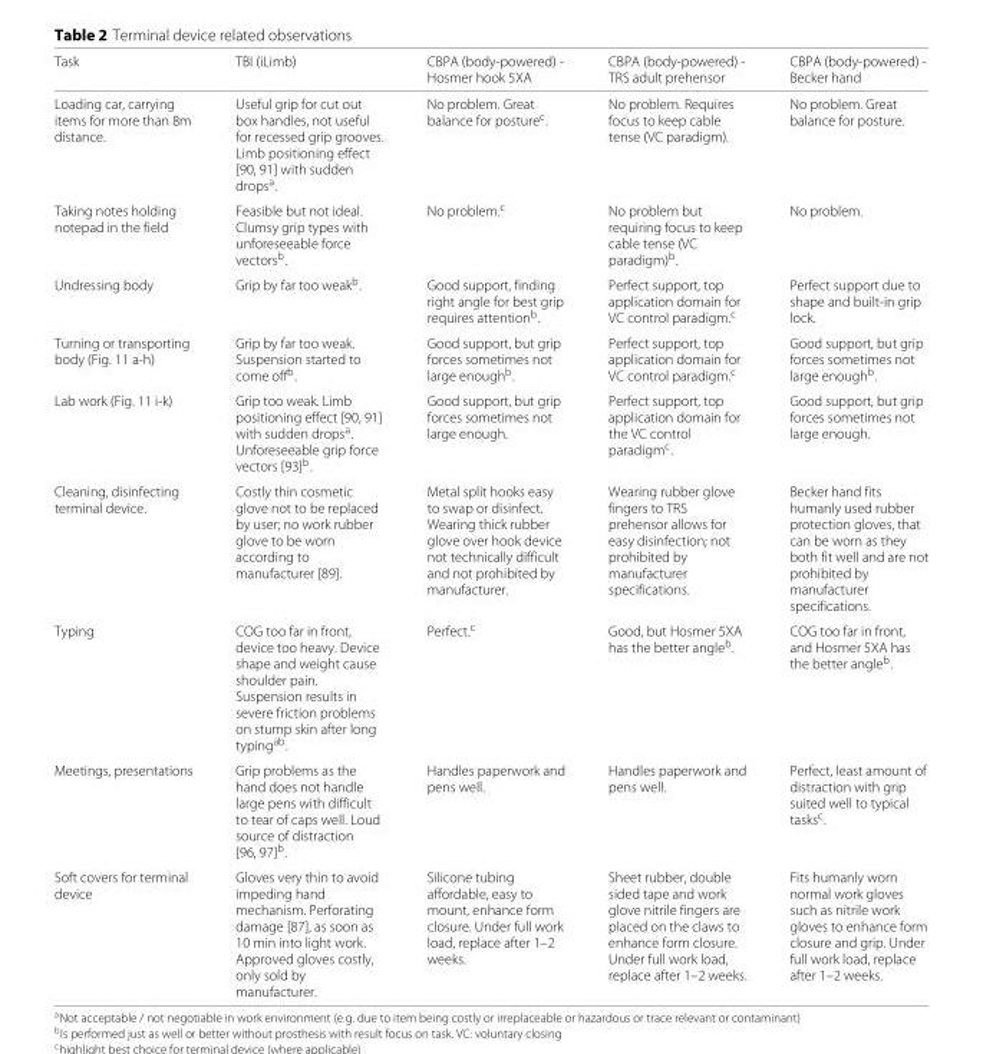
<table><thead><tr><td>Task</td><td>TBI (iLimb)</td><td>CBPA (body-powered) - Hosmer hook 5XA</td><td>CBPA (body-powered) - TRS adult prehensor</td><td>CBPA (body-powered) - Becker hand</td></tr></thead><tbody><tr><td>Loading car, carrying items for more than 8m distance.</td><td>Useful grip for cut out box handles, not useful for recessed grip grooves. Limb positioning effect [90, 91] with sudden drops<sup>a</sup>.</td><td>No problem. Great balance for posture<sup>c</sup>.</td><td>No problem. Requires focus to keep cable tense (VC paradigm).</td><td>No problem. Great balance for posture.</td></tr><tr><td>Taking notes holding notepad in the field</td><td>Feasible but not ideal. Clumsy grip types with unforeseeable force vectors<sup>b</sup>.</td><td>No problem.<sup>c</sup></td><td>No problem but requiring focus to keep cable tense (VC paradigm)<sup>b</sup>.</td><td>No problem.</td></tr><tr><td>Undressing body</td><td>Grip by far too weak<sup>b</sup>.</td><td>Good support, finding right angle for best grip requires attention<sup>b</sup>.</td><td>Perfect support, top application domain for VC control paradigm.<sup>c</sup></td><td>Perfect support due to shape and built-in grip lock.</td></tr><tr><td>Turning or transporting body (Fig. 11 a-h)</td><td>Grip by far too weak. Suspension started to come off<sup>b</sup>.</td><td>Good support, but grip forces sometimes not large enough<sup>b</sup>.</td><td>Perfect support, top application domain for VC control paradigm.<sup>c</sup></td><td>Good support, but grip forces sometimes not large enough<sup>b</sup>.</td></tr><tr><td>Lab work (Fig. 11 i-k)</td><td>Grip too weak. Limb positioning effect [90, 91] with sudden drops<sup>a</sup>. Unforeseeable grip force vectors [93]<sup>b</sup>.</td><td>Good support, but grip forces sometimes not large enough.</td><td>Perfect support, top application domain for the VC control paradigm<sup>c</sup>.</td><td>Good support, but grip forces sometimes not large enough.</td></tr><tr><td>Cleaning, disinfecting terminal device.</td><td>Costly thin cosmetic glove not to be replaced by user; no work rubber glove to be worn according to manufacturer [89].</td><td>Metal split hooks easy to swap or disinfect. Wearing thick rubber glove over hook device not technically difficult and not prohibited by manufacturer.</td><td>Wearing rubber glove fingers to TRS prehensor allows for easy disinfection; not prohibited by manufacturer specifications.</td><td>Becker hand fits humanly used rubber protection gloves, that can be worn as they both fit well and are not prohibited by manufacturer specifications.</td></tr><tr><td>Typing</td><td>COG too far in front, device too heavy. Device shape and weight cause shoulder pain. Suspension results in severe friction problems on stump skin after long typing<sup>ab</sup>.</td><td>Perfect.<sup>c</sup></td><td>Good, but Hosmer 5XA has the better angle<sup>b</sup>.</td><td>COG too far in front, and Hosmer 5XA has the better angle<sup>b</sup>.</td></tr><tr><td>Meetings, presentations</td><td>Grip problems as the hand does not handle large pens with difficult to tear of caps well. Loud source of distraction [96, 97]<sup>b</sup>.</td><td>Handles paperwork and pens well.</td><td>Handles paperwork and pens well.</td><td>Perfect, least amount of distraction with grip suited well to typical tasks<sup>c</sup>.</td></tr><tr><td>Soft covers for terminal device</td><td>Gloves very thin to avoid impeding hand mechanism. Perforating damage [87], as soon as 10 min into light work. Approved gloves costly, only sold by manufacturer.</td><td>Silicone tubing affordable, easy to mount, enhance form closure. Under full work load, replace after 1–2 weeks.</td><td>Sheet rubber, double sided tape and work glove nitrile fingers are placed on the claws to enhance form closure. Under full work load, replace after 1–2 weeks.</td><td>Fits humanly worn normal work gloves such as nitrile work gloves to enhance form closure and grip. Under full work load, replace after 1–2 weeks.</td></tr></tbody></table>